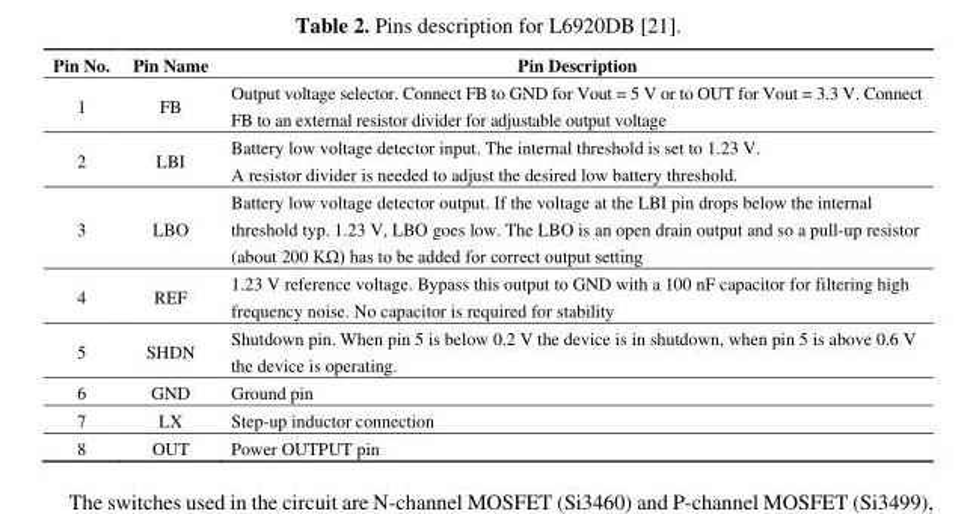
<table><thead><tr><td>Pin No.</td><td>Pin Name</td><td>Pin Description</td></tr></thead><tbody><tr><td>1</td><td>FB</td><td>Output voltage selector. Connect FB to GND for Vout = 5 V or to OUT for Vout = 3.3 V. Connect FB to an external resistor divider for adjustable output voltage</td></tr><tr><td>2</td><td>LBI</td><td>Battery low voltage detector input. The internal threshold is set to 1.23 V. A resistor divider is needed to adjust the desired low battery threshold.</td></tr><tr><td>3</td><td>LBO</td><td>Battery low voltage detector output. If the voltage at the LBI pin drops below the internal threshold typ. 1.23 V, LBO goes low. The LBO is an open drain output and so a pull-up resistor (about 200 KΩ) has to be added for correct output setting</td></tr><tr><td>4</td><td>REF</td><td>1.23 V reference voltage. Bypass this output to GND with a 100 nF capacitor for filtering high frequency noise. No capacitor is required for stability</td></tr><tr><td>5</td><td>SHDN</td><td>Shutdown pin. When pin 5 is below 0.2 V the device is in shutdown, when pin 5 is above 0.6 V the device is operating.</td></tr><tr><td>6</td><td>GND</td><td>Ground pin</td></tr><tr><td>7</td><td>LX</td><td>Step-up inductor connection</td></tr><tr><td>8</td><td>OUT</td><td>Power OUTPUT pin</td></tr></tbody></table>